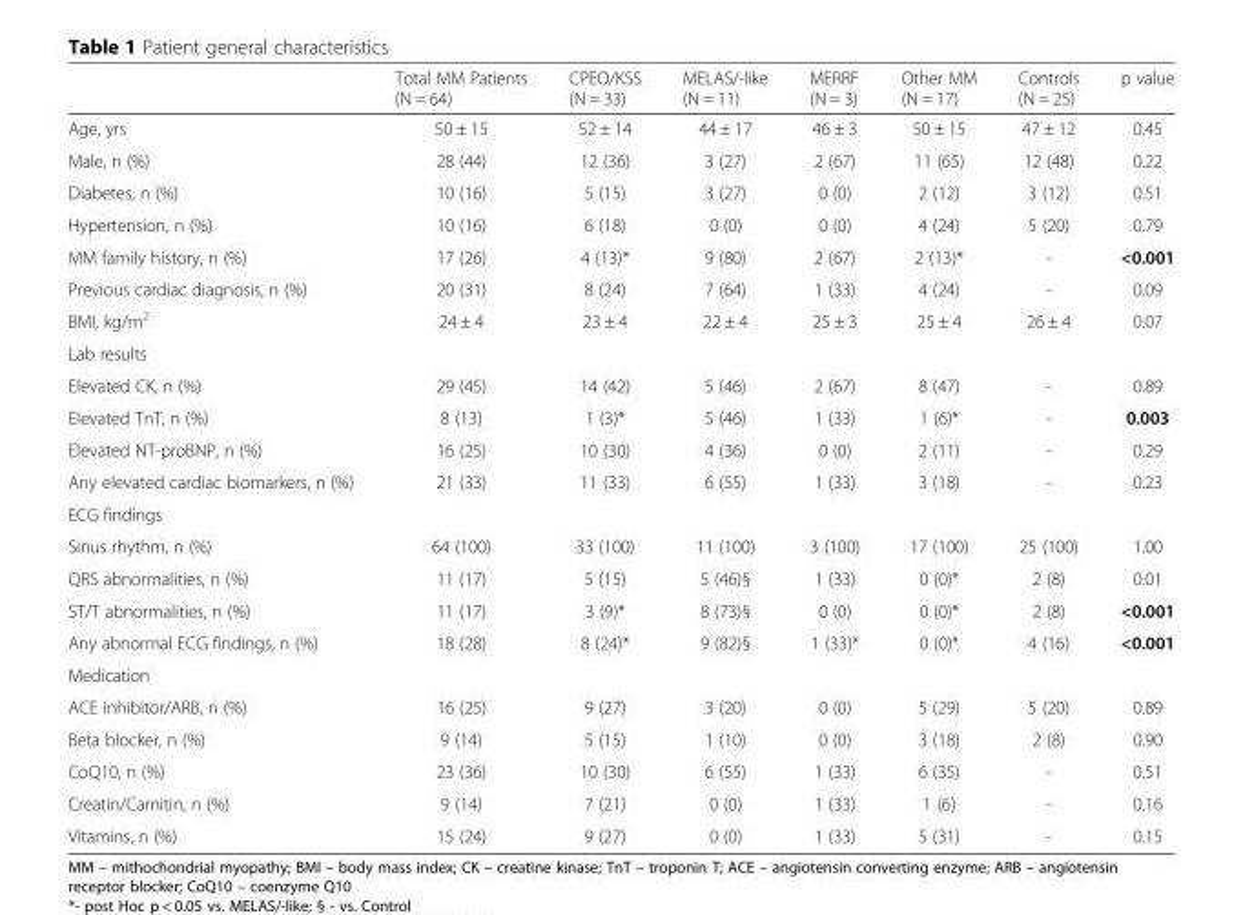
<table><thead><tr><td></td><td>Total MM Patients (N = 64)</td><td>CPEO/KSS (N = 33)</td><td>MELAS/-like (N = 11)</td><td>MERRF (N = 3)</td><td>Other MM (N = 17)</td><td>Controls (N = 25)</td><td>p value</td></tr></thead><tbody><tr><td>Age, yrs</td><td>50 ± 15</td><td>52 ± 14</td><td>44 ± 17</td><td>46 ± 3</td><td>50 ± 15</td><td>47 ± 12</td><td>0.45</td></tr><tr><td>Male, n (%)</td><td>28 (44)</td><td>12 (36)</td><td>3 (27)</td><td>2 (67)</td><td>11 (65)</td><td>12 (48)</td><td>0.22</td></tr><tr><td>Diabetes, n (%)</td><td>10 (16)</td><td>5 (15)</td><td>3 (27)</td><td>0 (0)</td><td>2 (12)</td><td>3 (12)</td><td>0.51</td></tr><tr><td>Hypertension, n (%)</td><td>10 (16)</td><td>6 (18)</td><td>0 (0)</td><td>0 (0)</td><td>4 (24)</td><td>5 (20)</td><td>0.79</td></tr><tr><td>MM family history, n (%)</td><td>17 (26)</td><td>4 (13)*</td><td>9 (80)</td><td>2 (67)</td><td>2 (13)*</td><td>-</td><td>&lt;0.001</td></tr><tr><td>Previous cardiac diagnosis, n (%)</td><td>20 (31)</td><td>8 (24)</td><td>7 (64)</td><td>1 (33)</td><td>4 (24)</td><td>-</td><td>0.09</td></tr><tr><td>BMI, kg/m<sup>2</sup></td><td>24 ± 4</td><td>23 ± 4</td><td>22 ± 4</td><td>25 ± 3</td><td>25 ± 4</td><td>26 ± 4</td><td>0.07</td></tr><tr><td colspan="8">Lab results</td></tr><tr><td>Elevated CK, n (%)</td><td>29 (45)</td><td>14 (42)</td><td>5 (46)</td><td>2 (67)</td><td>8 (47)</td><td>-</td><td>0.89</td></tr><tr><td>Elevated TnT, n (%)</td><td>8 (13)</td><td>1 (3)*</td><td>5 (46)</td><td>1 (33)</td><td>1 (6)*</td><td>-</td><td>0.003</td></tr><tr><td>Elevated NT-proBNP, n (%)</td><td>16 (25)</td><td>10 (30)</td><td>4 (36)</td><td>0 (0)</td><td>2 (11)</td><td>-</td><td>0.29</td></tr><tr><td>Any elevated cardiac biomarkers, n (%)</td><td>21 (33)</td><td>11 (33)</td><td>6 (55)</td><td>1 (33)</td><td>3 (18)</td><td>-</td><td>0.23</td></tr><tr><td colspan="8">ECG findings</td></tr><tr><td>Sinus rhythm, n (%)</td><td>64 (100)</td><td>33 (100)</td><td>11 (100)</td><td>3 (100)</td><td>17 (100)</td><td>25 (100)</td><td>1.00</td></tr><tr><td>QRS abnormalities, n (%)</td><td>11 (17)</td><td>5 (15)</td><td>5 (46)§</td><td>1 (33)</td><td>0 (0)*</td><td>2 (8)</td><td>0.01</td></tr><tr><td>ST/T abnormalities, n (%)</td><td>11 (17)</td><td>3 (9)*</td><td>8 (73)§</td><td>0 (0)</td><td>0 (0)*</td><td>2 (8)</td><td>&lt;0.001</td></tr><tr><td>Any abnormal ECG findings, n (%)</td><td>18 (28)</td><td>8 (24)*</td><td>9 (82)§</td><td>1 (33)*</td><td>0 (0)*</td><td>4 (16)</td><td>&lt;0.001</td></tr><tr><td colspan="8">Medication</td></tr><tr><td>ACE inhibitor/ARB, n (%)</td><td>16 (25)</td><td>9 (27)</td><td>3 (20)</td><td>0 (0)</td><td>5 (29)</td><td>5 (20)</td><td>0.89</td></tr><tr><td>Beta blocker, n (%)</td><td>9 (14)</td><td>5 (15)</td><td>1 (10)</td><td>0 (0)</td><td>3 (18)</td><td>2 (8)</td><td>0.90</td></tr><tr><td>CoQ10, n (%)</td><td>23 (36)</td><td>10 (30)</td><td>6 (55)</td><td>1 (33)</td><td>6 (35)</td><td>-</td><td>0.51</td></tr><tr><td>Creatin/Carnitin, n (%)</td><td>9 (14)</td><td>7 (21)</td><td>0 (0)</td><td>1 (33)</td><td>1 (6)</td><td>-</td><td>0.16</td></tr><tr><td>Vitamins, n (%)</td><td>15 (24)</td><td>9 (27)</td><td>0 (0)</td><td>1 (33)</td><td>5 (31)</td><td>-</td><td>0.15</td></tr></tbody></table>